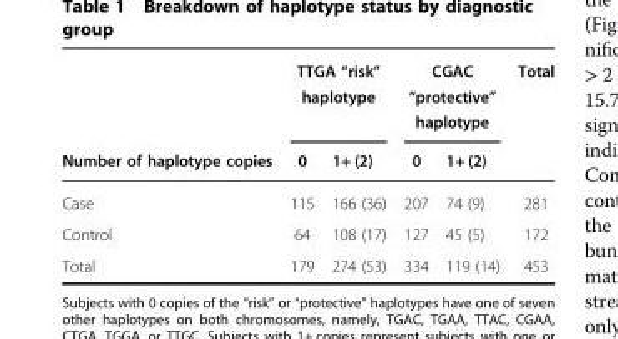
<table><thead><tr><td rowspan="2">Number of haplotype copies</td><td colspan="2">TTGA “risk” haplotype</td><td colspan="2">CGAC “protective” haplotype</td><td rowspan="2">Total</td></tr><tr><td>0</td><td>1+ (2)</td><td>0</td><td>1+ (2)</td></tr></thead><tbody><tr><td>Case</td><td>115</td><td>166 (36)</td><td>207</td><td>74 (9)</td><td>281</td></tr><tr><td>Control</td><td>64</td><td>108 (17)</td><td>127</td><td>45 (5)</td><td>172</td></tr><tr><td>Total</td><td>179</td><td>274 (53)</td><td>334</td><td>119 (14)</td><td>453</td></tr></tbody></table>